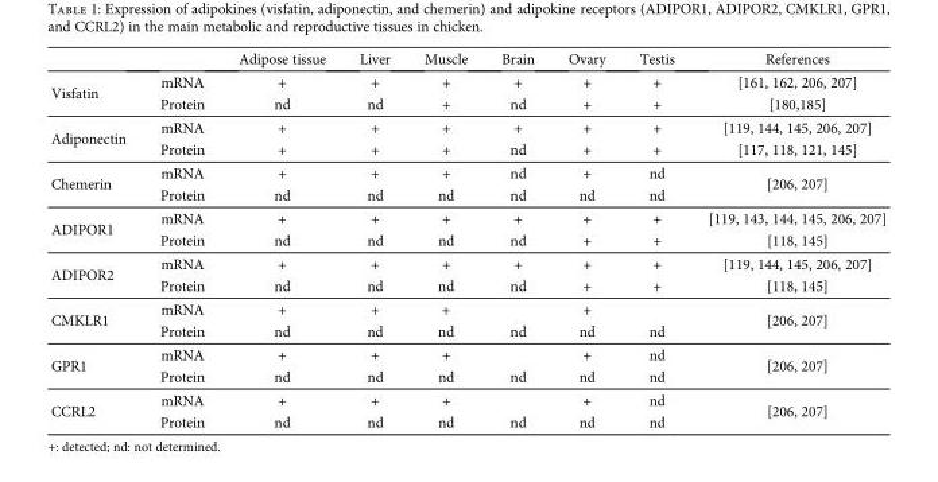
<table><thead><tr><td></td><td></td><td>Adipose tissue</td><td>Liver</td><td>Muscle</td><td>Brain</td><td>Ovary</td><td>Testis</td><td>References</td></tr></thead><tbody><tr><td rowspan="2">Visfatin</td><td>mRNA</td><td>+</td><td>+</td><td>+</td><td>+</td><td>+</td><td>+</td><td>[161, 162, 206, 207]</td></tr><tr><td>Protein</td><td>nd</td><td>nd</td><td>+</td><td>nd</td><td>+</td><td>+</td><td>[180,185]</td></tr><tr><td rowspan="2">Adiponectin</td><td>mRNA</td><td>+</td><td>+</td><td>+</td><td>+</td><td>+</td><td>+</td><td>[119, 144, 145, 206, 207]</td></tr><tr><td>Protein</td><td>+</td><td>+</td><td>+</td><td>nd</td><td>+</td><td>+</td><td>[117, 118, 121, 145]</td></tr><tr><td rowspan="2">Chemerin</td><td>mRNA</td><td>+</td><td>+</td><td>+</td><td>nd</td><td>+</td><td>nd</td><td rowspan="2">[206, 207]</td></tr><tr><td>Protein</td><td>nd</td><td>nd</td><td>nd</td><td>nd</td><td>nd</td><td>nd</td></tr><tr><td rowspan="2">ADIPOR1</td><td>mRNA</td><td>+</td><td>+</td><td>+</td><td>+</td><td>+</td><td>+</td><td>[119, 143, 144, 145, 206, 207]</td></tr><tr><td>Protein</td><td>nd</td><td>nd</td><td>nd</td><td>nd</td><td>+</td><td>+</td><td>[118, 145]</td></tr><tr><td rowspan="2">ADIPOR2</td><td>mRNA</td><td>+</td><td>+</td><td>+</td><td>+</td><td>+</td><td>+</td><td>[119, 144, 145, 206, 207]</td></tr><tr><td>Protein</td><td>nd</td><td>nd</td><td>nd</td><td>nd</td><td>+</td><td>+</td><td>[118, 145]</td></tr><tr><td rowspan="2">CMKLR1</td><td>mRNA</td><td>+</td><td>+</td><td>+</td><td></td><td>+</td><td></td><td rowspan="2">[206, 207]</td></tr><tr><td>Protein</td><td>nd</td><td>nd</td><td>nd</td><td>nd</td><td>nd</td><td>nd</td></tr><tr><td rowspan="2">GPR1</td><td>mRNA</td><td>+</td><td>+</td><td>+</td><td></td><td>+</td><td>nd</td><td rowspan="2">[206, 207]</td></tr><tr><td>Protein</td><td>nd</td><td>nd</td><td>nd</td><td>nd</td><td>nd</td><td>nd</td></tr><tr><td rowspan="2">CCRL2</td><td>mRNA</td><td>+</td><td>+</td><td>+</td><td></td><td>+</td><td>nd</td><td rowspan="2">[206, 207]</td></tr><tr><td>Protein</td><td>nd</td><td>nd</td><td>nd</td><td>nd</td><td>nd</td><td>nd</td></tr></tbody></table>